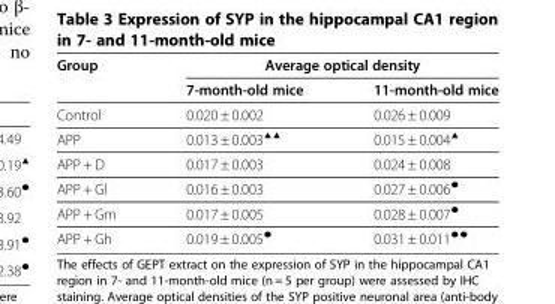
<table><thead><tr><td rowspan="2">Group</td><td colspan="2">Average optical density</td></tr><tr><td>7-month-old mice</td><td>11-month-old mice</td></tr></thead><tbody><tr><td>Control</td><td>0.020 ± 0.002</td><td>0.026 ± 0.009</td></tr><tr><td>APP</td><td>0.013 ± 0.003<sup>▲▲</sup></td><td>0.015 ± 0.004<sup>▲</sup></td></tr><tr><td>APP + D</td><td>0.017 ± 0.003</td><td>0.024 ± 0.008</td></tr><tr><td>APP + Gl</td><td>0.016 ± 0.003</td><td>0.027 ± 0.006<sup>●</sup></td></tr><tr><td>APP + Gm</td><td>0.017 ± 0.005</td><td>0.028 ± 0.007<sup>●</sup></td></tr><tr><td>APP + Gh</td><td>0.019 ± 0.005●</td><td>0.031 ± 0.011<sup>●●</sup></td></tr></tbody></table>